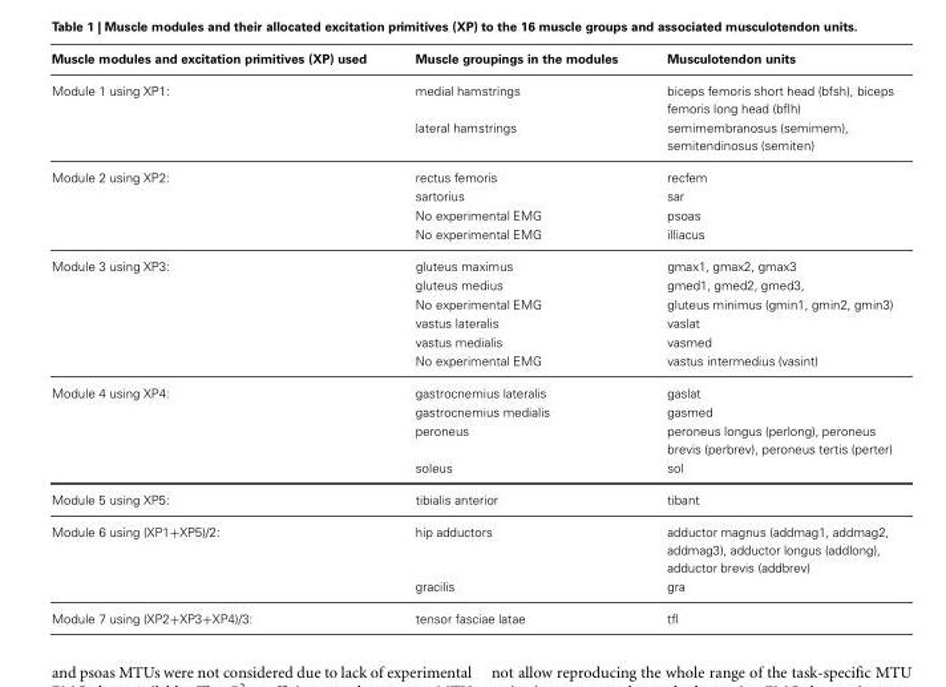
<table><thead><tr><td>Muscle modules and excitation primitives (XP) used</td><td>Muscle groupings in the modules</td><td>Musculotendon units</td></tr></thead><tbody><tr><td rowspan="2">Module 1 using XP1:</td><td>medial hamstrings</td><td>biceps femoris short head (bfsh), biceps femoris long head (bflh)</td></tr><tr><td>lateral hamstrings</td><td>semimembranosus (semimem), semitendinosus (semiten)</td></tr><tr><td rowspan="4">Module 2 using XP2:</td><td>rectus femoris</td><td>recfem</td></tr><tr><td>sartorius</td><td>sar</td></tr><tr><td>No experimental EMG</td><td>psoas</td></tr><tr><td>No experimental EMG</td><td>illiacus</td></tr><tr><td rowspan="6">Module 3 using XP3:</td><td>gluteus maximus</td><td>gmax1, gmax2, gmax3</td></tr><tr><td>gluteus medius</td><td>gmed1, gmed2, gmed3,</td></tr><tr><td>No experimental EMG</td><td>gluteus minimus (gmin1, gmin2, gmin3)</td></tr><tr><td>vastus lateralis</td><td>vaslat</td></tr><tr><td>vastus medialis</td><td>vasmed</td></tr><tr><td>No experimental EMG</td><td>vastus intermedius (vasint)</td></tr><tr><td rowspan="4">Module 4 using XP4:</td><td>gastrocnemius lateralis</td><td>gaslat</td></tr><tr><td>gastrocnemius medialis</td><td>gasmed</td></tr><tr><td>peroneus</td><td>peroneus longus (perlong), peroneus brevis (perbrev), peroneus tertis (perter)</td></tr><tr><td>soleus</td><td>sol</td></tr><tr><td>Module 5 using XP5:</td><td>tibialis anterior</td><td>tibant</td></tr><tr><td rowspan="2">Module 6 using (XP1+XP5)/2:</td><td>hip adductors</td><td>adductor magnus (addmag1, addmag2, addmag3), adductor longus (addlong), adductor brevis (addbrev)</td></tr><tr><td>gracilis</td><td>gra</td></tr><tr><td>Module 7 using (XP2+XP3+XP4)/3:</td><td>tensor fasciae latae</td><td>tfl</td></tr></tbody></table>